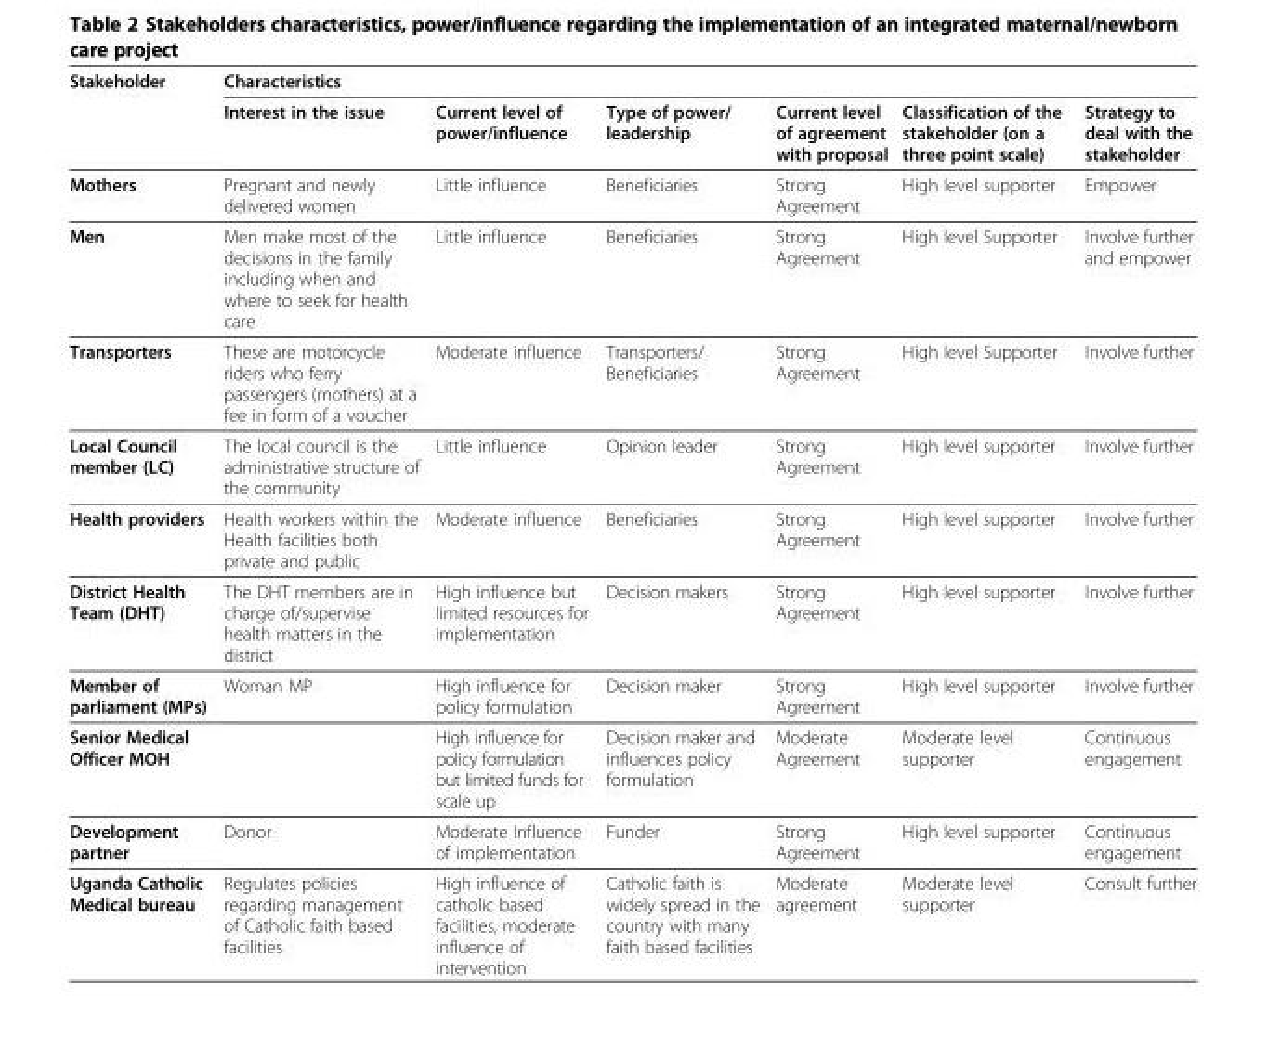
<table><thead><tr><td rowspan="2">Stakeholder</td><td colspan="6">Characteristics</td></tr><tr><td>Interest in the issue</td><td>Current level of power/influence</td><td>Type of power/ leadership</td><td>Current level of agreement with proposal</td><td>Classification of the stakeholder (on a three point scale)</td><td>Strategy to deal with the stakeholder</td></tr></thead><tbody><tr><td>Mothers</td><td>Pregnant and newly delivered women</td><td>Little influence</td><td>Beneficiaries</td><td>Strong Agreement</td><td>High level supporter</td><td>Empower</td></tr><tr><td>Men</td><td>Men make most of the decisions in the family including when and where to seek for health care</td><td>Little influence</td><td>Beneficiaries</td><td>Strong Agreement</td><td>High level Supporter</td><td>Involve further and empower</td></tr><tr><td>Transporters</td><td>These are motorcycle riders who ferry passengers (mothers) at a fee in form of a voucher</td><td>Moderate influence</td><td>Transporters/ Beneficiaries</td><td>Strong Agreement</td><td>High level Supporter</td><td>Involve further</td></tr><tr><td>Local Council member (LC)</td><td>The local council is the administrative structure of the community</td><td>Little influence</td><td>Opinion leader</td><td>Strong Agreement</td><td>High level supporter</td><td>Involve further</td></tr><tr><td>Health providers</td><td>Health workers within the Health facilities both private and public</td><td>Moderate influence</td><td>Beneficiaries</td><td>Strong Agreement</td><td>High level supporter</td><td>Involve further</td></tr><tr><td>District Health Team (DHT)</td><td>The DHT members are in charge of/supervise health matters in the district</td><td>High influence but limited resources for implementation</td><td>Decision makers</td><td>Strong Agreement</td><td>High level supporter</td><td>Involve further</td></tr><tr><td>Member of parliament (MPs)</td><td>Woman MP</td><td>High influence for policy formulation</td><td>Decision maker</td><td>Strong Agreement</td><td>High level supporter</td><td>Involve further</td></tr><tr><td>Senior Medical Officer MOH</td><td></td><td>High influence for policy formulation but limited funds for scale up</td><td>Decision maker and influences policy formulation</td><td>Moderate Agreement</td><td>Moderate level supporter</td><td>Continuous engagement</td></tr><tr><td>Development partner</td><td>Donor</td><td>Moderate Influence of implementation</td><td>Funder</td><td>Strong Agreement</td><td>High level supporter</td><td>Continuous engagement</td></tr><tr><td>Uganda Catholic Medical bureau</td><td>Regulates policies regarding management of Catholic faith based facilities</td><td>High influence of catholic based facilities, moderate influence of intervention</td><td>Catholic faith is widely spread in the country with many faith based facilities</td><td>Moderate agreement</td><td>Moderate level supporter</td><td>Consult further</td></tr></tbody></table>